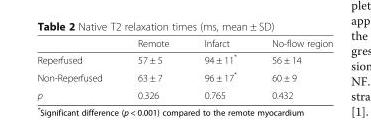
<table><thead><tr><td></td><td>Remote</td><td>Infarct</td><td>No-flow region</td></tr></thead><tbody><tr><td>Reperfused</td><td>57 ± 5</td><td>94 ± 11*</td><td>56 ± 14</td></tr><tr><td>Non-Reperfused</td><td>63 ± 7</td><td>96 ± 17*</td><td>60 ± 9</td></tr><tr><td>p</td><td>0.326</td><td>0.765</td><td>0.432</td></tr></tbody></table>